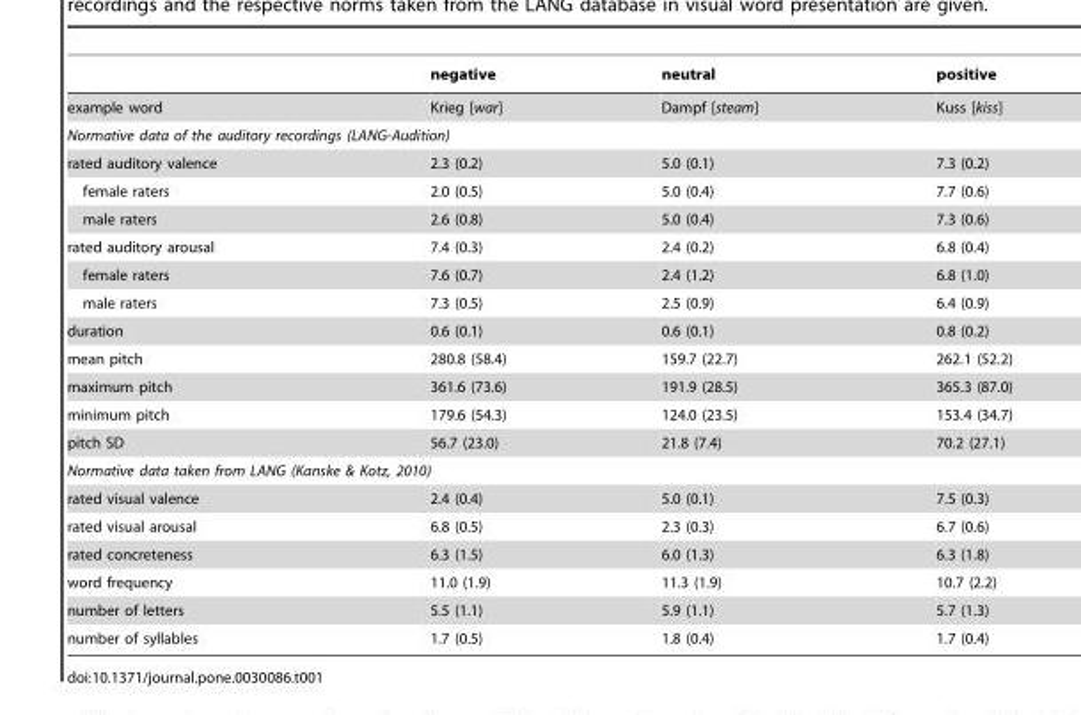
<table><thead><tr><td></td><td>negative</td><td>neutral</td><td>positive</td></tr></thead><tbody><tr><td>example word</td><td>Krieg [war]</td><td>Dampf [steam]</td><td>Kuss [kiss]</td></tr><tr><td colspan="4">Normative data of the auditory recordings (LANG-Audition)</td></tr><tr><td>rated auditory valence</td><td>2.3 (0.2)</td><td>5.0 (0.1)</td><td>7.3 (0.2)</td></tr><tr><td>female raters</td><td>2.0 (0.5)</td><td>5.0 (0.4)</td><td>7.7 (0.6)</td></tr><tr><td>male raters</td><td>2.6 (0.8)</td><td>5.0 (0.4)</td><td>7.3 (0.6)</td></tr><tr><td>rated auditory arousal</td><td>7.4 (0.3)</td><td>2.4 (0.2)</td><td>6.8 (0.4)</td></tr><tr><td>female raters</td><td>7.6 (0.7)</td><td>2.4 (1.2)</td><td>6.8 (1.0)</td></tr><tr><td>male raters</td><td>7.3 (0.5)</td><td>2.5 (0.9)</td><td>6.4 (0.9)</td></tr><tr><td>duration</td><td>0.6 (0.1)</td><td>0.6 (0.1)</td><td>0.8 (0.2)</td></tr><tr><td>mean pitch</td><td>280.8 (58.4)</td><td>159.7 (22.7)</td><td>262.1 (52.2)</td></tr><tr><td>maximum pitch</td><td>361.6 (73.6)</td><td>191.9 (28.5)</td><td>365.3 (87.0)</td></tr><tr><td>minimum pitch</td><td>179.6 (54.3)</td><td>124.0 (23.5)</td><td>153.4 (34.7)</td></tr><tr><td>pitch SD</td><td>56.7 (23.0)</td><td>21.8 (7.4)</td><td>70.2 (27.1)</td></tr><tr><td colspan="4">Normative data taken from LANG (Kanske &amp; Kotz, 2010)</td></tr><tr><td>rated visual valence</td><td>2.4 (0.4)</td><td>5.0 (0.1)</td><td>7.5 (0.3)</td></tr><tr><td>rated visual arousal</td><td>6.8 (0.5)</td><td>2.3 (0.3)</td><td>6.7 (0.6)</td></tr><tr><td>rated concreteness</td><td>6.3 (1.5)</td><td>6.0 (1.3)</td><td>6.3 (1.8)</td></tr><tr><td>word frequency</td><td>11.0 (1.9)</td><td>11.3 (1.9)</td><td>10.7 (2.2)</td></tr><tr><td>number of letters</td><td>5.5 (1.1)</td><td>5.9 (1.1)</td><td>5.7 (1.3)</td></tr><tr><td>number of syllables</td><td>1.7 (0.5)</td><td>1.8 (0.4)</td><td>1.7 (0.4)</td></tr></tbody></table>